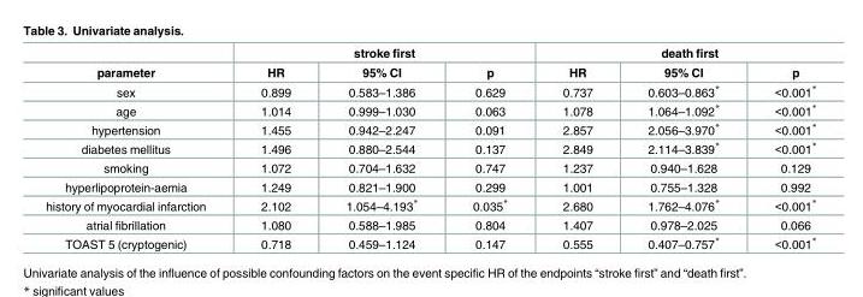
<table><thead><tr><td rowspan="2">parameter</td><td colspan="3">stroke first</td><td colspan="3">death first</td></tr><tr><td>HR</td><td>95% CI</td><td>p</td><td>HR</td><td>95% CI</td><td>p</td></tr></thead><tbody><tr><td>sex</td><td>0.899</td><td>0.583–1.386</td><td>0.629</td><td>0.737</td><td>0.603–0.863*</td><td>&lt;0.001*</td></tr><tr><td>age</td><td>1.014</td><td>0.999–1.030</td><td>0.063</td><td>1.078</td><td>1.064–1.092*</td><td>&lt;0.001*</td></tr><tr><td>hypertension</td><td>1.455</td><td>0.942–2.247</td><td>0.091</td><td>2.857</td><td>2.056–3.970*</td><td>&lt;0.001*</td></tr><tr><td>diabetes mellitus</td><td>1.496</td><td>0.880–2.544</td><td>0.137</td><td>2.849</td><td>2.114–3.839*</td><td>&lt;0.001*</td></tr><tr><td>smoking</td><td>1.072</td><td>0.704–1.632</td><td>0.747</td><td>1.237</td><td>0.940–1.628</td><td>0.129</td></tr><tr><td>hyperlipoprotein-aemia</td><td>1.249</td><td>0.821–1.900</td><td>0.299</td><td>1.001</td><td>0.755–1.328</td><td>0.992</td></tr><tr><td>history of myocardial infarction</td><td>2.102</td><td>1.054–4.193*</td><td>0.035*</td><td>2.680</td><td>1.762–4.076*</td><td>&lt;0.001*</td></tr><tr><td>atrial fibrillation</td><td>1.080</td><td>0.588–1.985</td><td>0.804</td><td>1.407</td><td>0.978–2.025</td><td>0.066</td></tr><tr><td>TOAST 5 (cryptogenic)</td><td>0.718</td><td>0.459–1.124</td><td>0.147</td><td>0.555</td><td>0.407–0.757*</td><td>&lt;0.001*</td></tr></tbody></table>